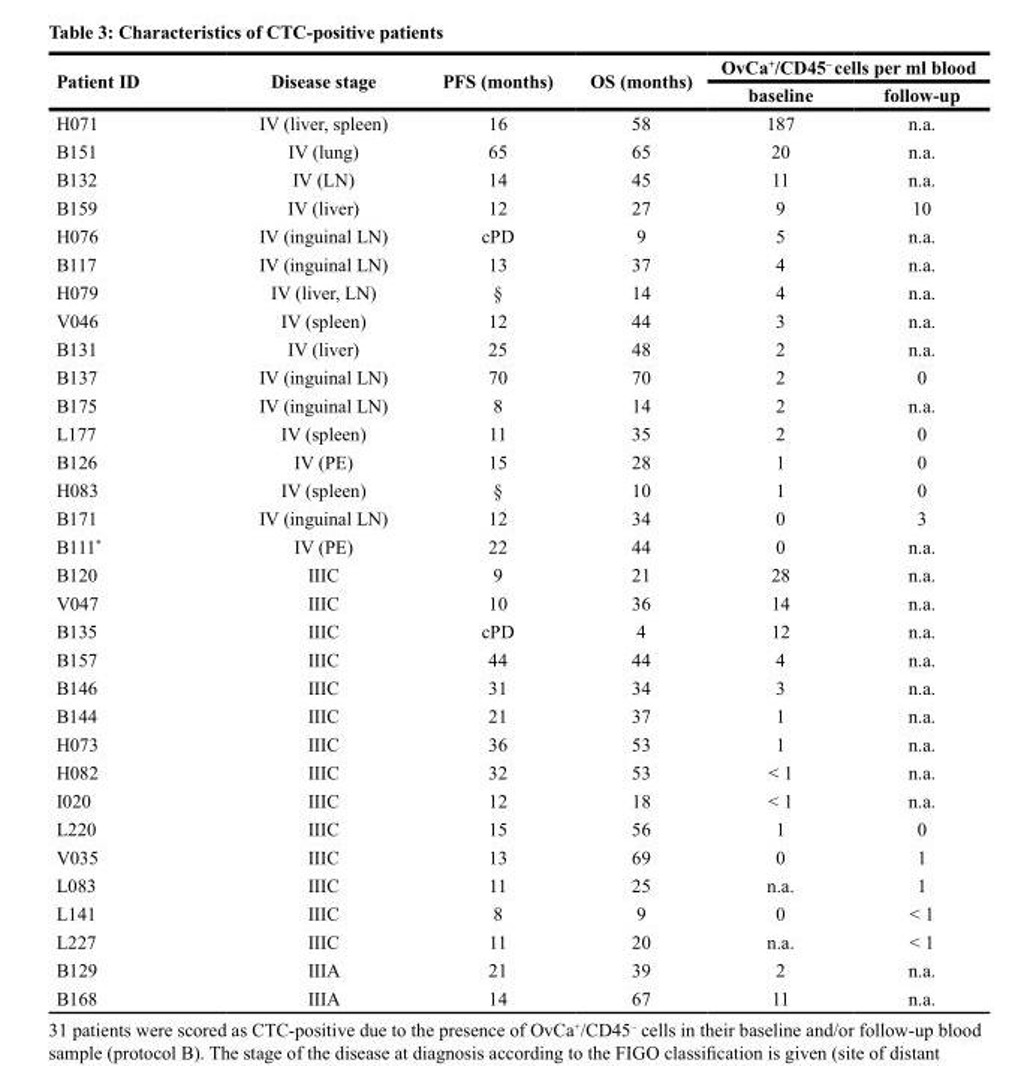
<table><thead><tr><td rowspan="2">Patient ID</td><td rowspan="2">Disease stage</td><td rowspan="2">PFS (months)</td><td rowspan="2">OS (months)</td><td colspan="2">OvCa<sup>+</sup>/CD45<sup>–</sup> cells per ml blood</td></tr><tr><td>baseline</td><td>follow-up</td></tr></thead><tbody><tr><td>H071</td><td>IV (liver, spleen)</td><td>16</td><td>58</td><td>187</td><td>n.a.</td></tr><tr><td>B151</td><td>IV (lung)</td><td>65</td><td>65</td><td>20</td><td>n.a.</td></tr><tr><td>B132</td><td>IV (LN)</td><td>14</td><td>45</td><td>11</td><td>n.a.</td></tr><tr><td>B159</td><td>IV (liver)</td><td>12</td><td>27</td><td>9</td><td>10</td></tr><tr><td>H076</td><td>IV (inguinal LN)</td><td>cPD</td><td>9</td><td>5</td><td>n.a.</td></tr><tr><td>B117</td><td>IV (inguinal LN)</td><td>13</td><td>37</td><td>4</td><td>n.a.</td></tr><tr><td>H079</td><td>IV (liver, LN)</td><td>§</td><td>14</td><td>4</td><td>n.a.</td></tr><tr><td>V046</td><td>IV (spleen)</td><td>12</td><td>44</td><td>3</td><td>n.a.</td></tr><tr><td>B131</td><td>IV (liver)</td><td>25</td><td>48</td><td>2</td><td>n.a.</td></tr><tr><td>B137</td><td>IV (inguinal LN)</td><td>70</td><td>70</td><td>2</td><td>0</td></tr><tr><td>B175</td><td>IV (inguinal LN)</td><td>8</td><td>14</td><td>2</td><td>n.a.</td></tr><tr><td>L177</td><td>IV (spleen)</td><td>11</td><td>35</td><td>2</td><td>0</td></tr><tr><td>B126</td><td>IV (PE)</td><td>15</td><td>28</td><td>1</td><td>0</td></tr><tr><td>H083</td><td>IV (spleen)</td><td>§</td><td>10</td><td>1</td><td>0</td></tr><tr><td>B171</td><td>IV (inguinal LN)</td><td>12</td><td>34</td><td>0</td><td>3</td></tr><tr><td>B111*</td><td>IV (PE)</td><td>22</td><td>44</td><td>0</td><td>n.a.</td></tr><tr><td>B120</td><td>IIIC</td><td>9</td><td>21</td><td>28</td><td>n.a.</td></tr><tr><td>V047</td><td>IIIC</td><td>10</td><td>36</td><td>14</td><td>n.a.</td></tr><tr><td>B135</td><td>IIIC</td><td>cPD</td><td>4</td><td>12</td><td>n.a.</td></tr><tr><td>B157</td><td>IIIC</td><td>44</td><td>44</td><td>4</td><td>n.a.</td></tr><tr><td>B146</td><td>IIIC</td><td>31</td><td>34</td><td>3</td><td>n.a.</td></tr><tr><td>B144</td><td>IIIC</td><td>21</td><td>37</td><td>1</td><td>n.a.</td></tr><tr><td>H073</td><td>IIIC</td><td>36</td><td>53</td><td>1</td><td>n.a.</td></tr><tr><td>H082</td><td>IIIC</td><td>32</td><td>53</td><td>&lt; 1</td><td>n.a.</td></tr><tr><td>I020</td><td>IIIC</td><td>12</td><td>18</td><td>&lt; 1</td><td>n.a.</td></tr><tr><td>L220</td><td>IIIC</td><td>15</td><td>56</td><td>1</td><td>0</td></tr><tr><td>V035</td><td>IIIC</td><td>13</td><td>69</td><td>0</td><td>1</td></tr><tr><td>L083</td><td>IIIC</td><td>11</td><td>25</td><td>n.a.</td><td>1</td></tr><tr><td>L141</td><td>IIIC</td><td>8</td><td>9</td><td>0</td><td>&lt; 1</td></tr><tr><td>L227</td><td>IIIC</td><td>11</td><td>20</td><td>n.a.</td><td>&lt; 1</td></tr><tr><td>B129</td><td>IIIA</td><td>21</td><td>39</td><td>2</td><td>n.a.</td></tr><tr><td>B168</td><td>IIIA</td><td>14</td><td>67</td><td>11</td><td>n.a.</td></tr></tbody></table>